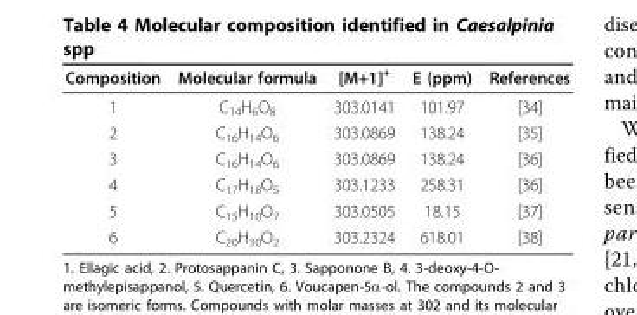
<table><thead><tr><td>Composition</td><td>Molecular formula</td><td>[M+1]<sup>+</sup></td><td>E (ppm)</td><td>References</td></tr></thead><tbody><tr><td>1</td><td>C<sub>14</sub>H<sub>6</sub>O<sub>8</sub></td><td>303.0141</td><td>101.97</td><td>[34]</td></tr><tr><td>2</td><td>C<sub>16</sub>H<sub>14</sub>O<sub>6</sub></td><td>303.0869</td><td>138.24</td><td>[35]</td></tr><tr><td>3</td><td>C<sub>16</sub>H<sub>14</sub>O<sub>6</sub></td><td>303.0869</td><td>138.24</td><td>[36]</td></tr><tr><td>4</td><td>C<sub>17</sub>H<sub>18</sub>O<sub>5</sub></td><td>303.1233</td><td>258.31</td><td>[36]</td></tr><tr><td>5</td><td>C<sub>15</sub>H<sub>10</sub>O<sub>7</sub></td><td>303.0505</td><td>18.15</td><td>[37]</td></tr><tr><td>6</td><td>C<sub>20</sub>H<sub>30</sub>O<sub>2</sub></td><td>303.2324</td><td>618.01</td><td>[38]</td></tr></tbody></table>